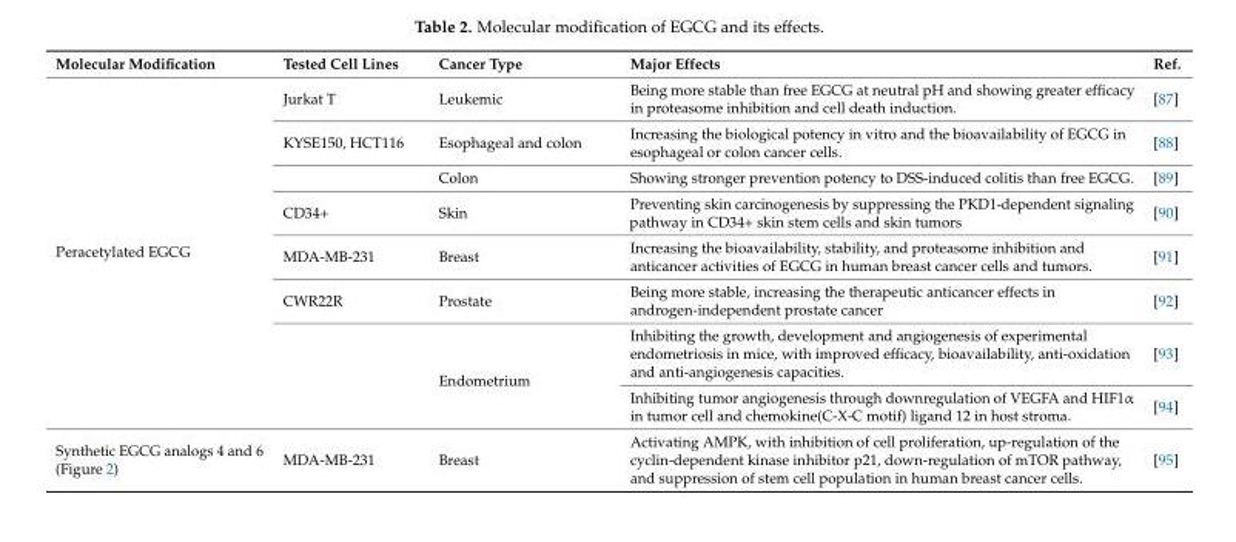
<table><thead><tr><td>Molecular Modification</td><td>Tested Cell Lines</td><td>Cancer Type</td><td>Major Effects</td><td>Ref.</td></tr></thead><tbody><tr><td rowspan="8">Peracetylated EGCG</td><td>Jurkat T</td><td>Leukemic</td><td>Being more stable than free EGCG at neutral pH and showing greater efficacy in proteasome inhibition and cell death induction.</td><td>[87]</td></tr><tr><td>KYSE150, HCT116</td><td>Esophageal and colon</td><td>Increasing the biological potency in vitro and the bioavailability of EGCG in esophageal or colon cancer cells.</td><td>[88]</td></tr><tr><td></td><td>Colon</td><td>Showing stronger prevention potency to DSS-induced colitis than free EGCG.</td><td>[89]</td></tr><tr><td>CD34+</td><td>Skin</td><td>Preventing skin carcinogenesis by suppressing the PKD1-dependent signaling pathway in CD34+ skin stem cells and skin tumors</td><td>[90]</td></tr><tr><td>MDA-MB-231</td><td>Breast</td><td>Increasing the bioavailability, stability, and proteasome inhibition and anticancer activities of EGCG in human breast cancer cells and tumors.</td><td>[91]</td></tr><tr><td>CWR22R</td><td>Prostate</td><td>Being more stable, increasing the therapeutic anticancer effects in androgen-independent prostate cancer</td><td>[92]</td></tr><tr><td rowspan="2"></td><td rowspan="2">Endometrium</td><td>Inhibiting the growth, development and angiogenesis of experimental endometriosis in mice, with improved efficacy, bioavailability, anti-oxidation and anti-angiogenesis capacities.</td><td>[93]</td></tr><tr><td>Inhibiting tumor angiogenesis through downregulation of VEGFA and HIF1α in tumor cell and chemokine(C-X-C motif) ligand 12 in host stroma.</td><td>[94]</td></tr><tr><td>Synthetic EGCG analogs 4 and 6 (Figure 2)</td><td>MDA-MB-231</td><td>Breast</td><td>Activating AMPK, with inhibition of cell proliferation, up-regulation of the cyclin-dependent kinase inhibitor p21, down-regulation of mTOR pathway, and suppression of stem cell population in human breast cancer cells.</td><td>[95]</td></tr></tbody></table>